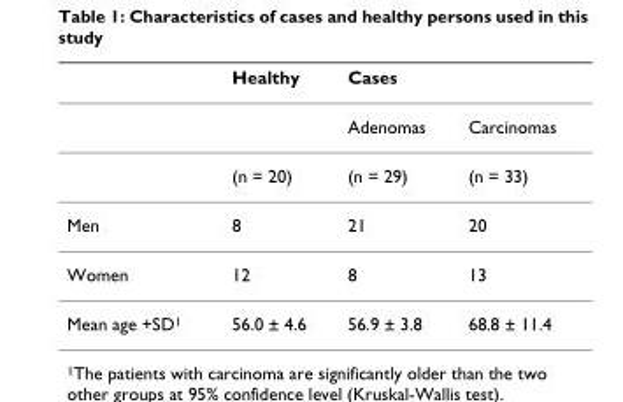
<table><thead><tr><td></td><td>Healthy</td><td>Cases</td><td></td></tr></thead><tbody><tr><td></td><td></td><td>Adenomas</td><td>Carcinomas</td></tr><tr><td></td><td>(n = 20)</td><td>(n = 29)</td><td>(n = 33)</td></tr><tr><td>Men</td><td>8</td><td>21</td><td>20</td></tr><tr><td>Women</td><td>12</td><td>8</td><td>13</td></tr><tr><td>Mean age +SD<sup>1</sup></td><td>56.0 ± 4.6</td><td>56.9 ± 3.8</td><td>68.8 ± 11.4</td></tr></tbody></table>